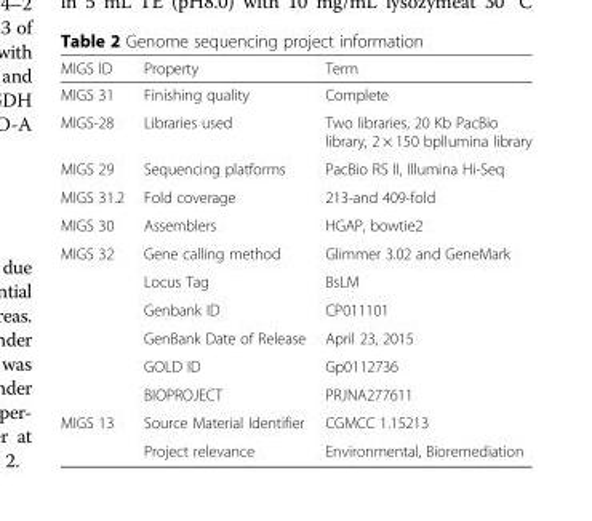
<table><thead><tr><td>MIGS ID</td><td>Property</td><td>Term</td></tr></thead><tbody><tr><td>MIGS 31</td><td>Finishing quality</td><td>Complete</td></tr><tr><td>MIGS-28</td><td>Libraries used</td><td>Two libraries, 20 Kb PacBio library, 2 × 150 bpllumina library</td></tr><tr><td>MIGS 29</td><td>Sequencing platforms</td><td>PacBio RS II, Illumina Hi-Seq</td></tr><tr><td>MIGS 31.2</td><td>Fold coverage</td><td>213-and 409-fold</td></tr><tr><td>MIGS 30</td><td>Assemblers</td><td>HGAP, bowtie2</td></tr><tr><td rowspan="6">MIGS 32</td><td>Gene calling method</td><td>Glimmer 3.02 and GeneMark</td></tr><tr><td>Locus Tag</td><td>BsLM</td></tr><tr><td>Genbank ID</td><td>CP011101</td></tr><tr><td>GenBank Date of Release</td><td>April 23, 2015</td></tr><tr><td>GOLD ID</td><td>Gp0112736</td></tr><tr><td>BIOPROJECT</td><td>PRJNA277611</td></tr><tr><td rowspan="2">MIGS 13</td><td>Source Material Identifier</td><td>CGMCC 1.15213</td></tr><tr><td>Project relevance</td><td>Environmental, Bioremediation</td></tr></tbody></table>